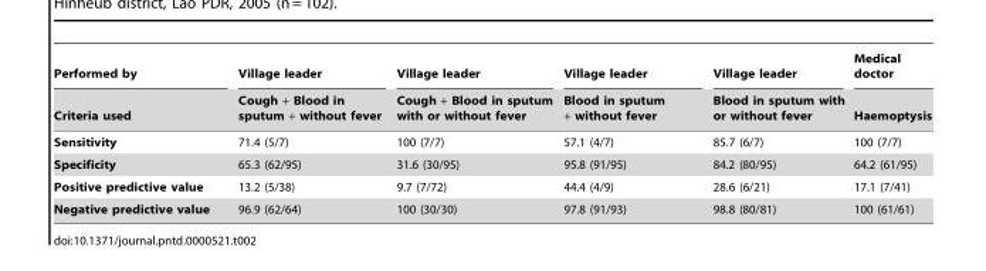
<table><thead><tr><td rowspan="2">Performed by Criteria used</td><td rowspan="2">Village leader Cough + Blood in sputum + without fever</td><td rowspan="2">Village leader Cough + Blood in sputum with or without fever</td><td rowspan="2">Village leader Blood in sputum + without fever</td><td rowspan="2">Village leader Blood in sputum with or without fever</td><td rowspan="2">Medical doctor Haemoptysis</td></tr><tr></tr></thead><tbody><tr><td>Sensitivity</td><td>71.4 (5/7)</td><td>100 (7/7)</td><td>57.1 (4/7)</td><td>85.7 (6/7)</td><td>100 (7/7)</td></tr><tr><td>Specificity</td><td>65.3 (62/95)</td><td>31.6 (30/95)</td><td>95.8 (91/95)</td><td>84.2 (80/95)</td><td>64.2 (61/95)</td></tr><tr><td>Positive predictive value</td><td>13.2 (5/38)</td><td>9.7 (7/72)</td><td>44.4 (4/9)</td><td>28.6 (6/21)</td><td>17.1 (7/41)</td></tr><tr><td>Negative predictive value</td><td>96.9 (62/64)</td><td>100 (30/30)</td><td>97.8 (91/93)</td><td>98.8 (80/81)</td><td>100 (61/61)</td></tr></tbody></table>